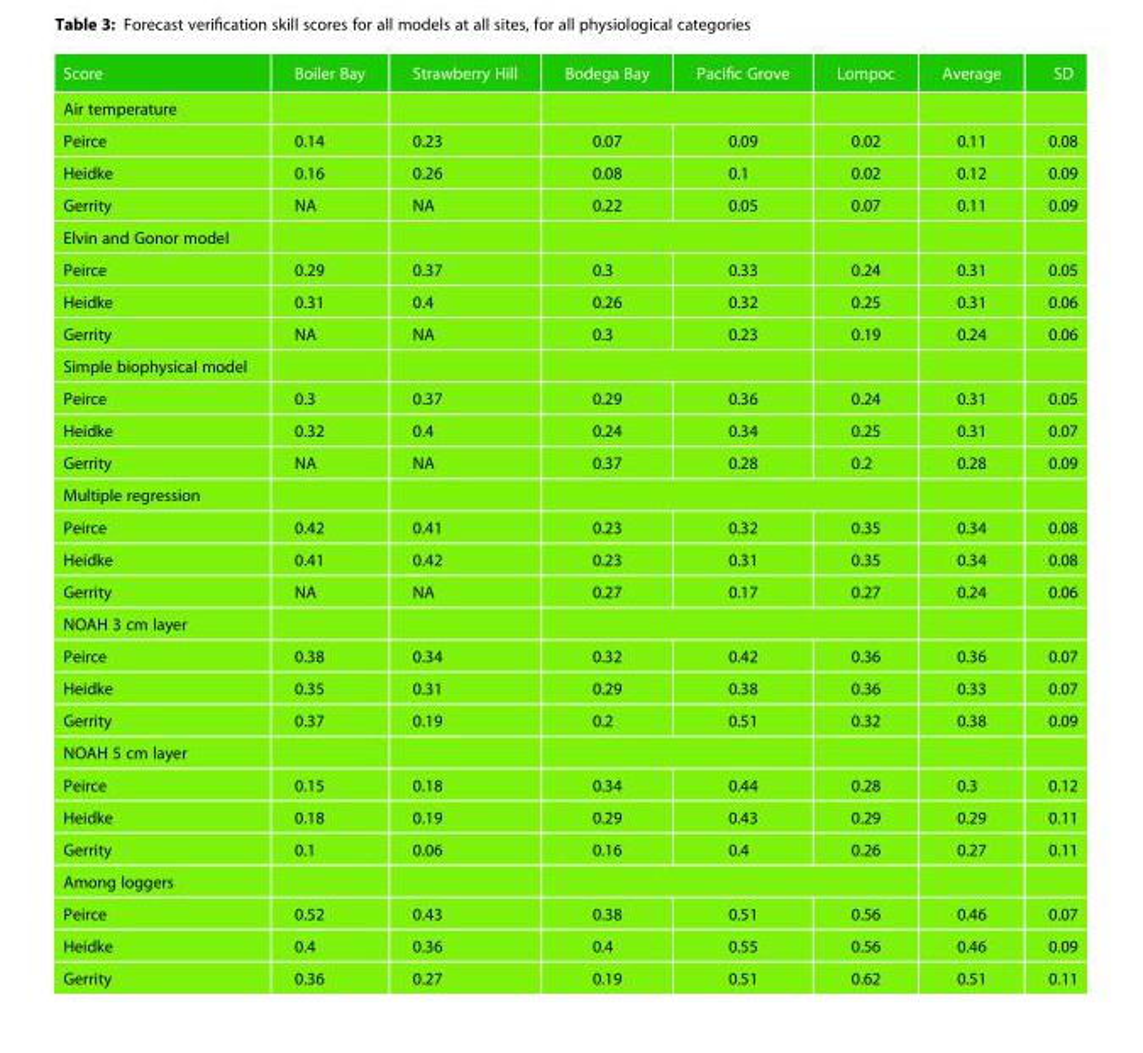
<table><thead><tr><td>Score</td><td>Boiler Bay</td><td>Strawberry Hill</td><td>Bodega Bay</td><td>Pacific Grove</td><td>Lompoc</td><td>Average</td><td>SD</td></tr></thead><tbody><tr><td colspan="8">Air temperature</td></tr><tr><td>Peirce</td><td>0.14</td><td>0.23</td><td>0.07</td><td>0.09</td><td>0.02</td><td>0.11</td><td>0.08</td></tr><tr><td>Heidke</td><td>0.16</td><td>0.26</td><td>0.08</td><td>0.1</td><td>0.02</td><td>0.12</td><td>0.09</td></tr><tr><td>Gerrity</td><td>NA</td><td>NA</td><td>0.22</td><td>0.05</td><td>0.07</td><td>0.11</td><td>0.09</td></tr><tr><td colspan="8">Elvin and Gonor model</td></tr><tr><td>Peirce</td><td>0.29</td><td>0.37</td><td>0.3</td><td>0.33</td><td>0.24</td><td>0.31</td><td>0.05</td></tr><tr><td>Heidke</td><td>0.31</td><td>0.4</td><td>0.26</td><td>0.32</td><td>0.25</td><td>0.31</td><td>0.06</td></tr><tr><td>Gerrity</td><td>NA</td><td>NA</td><td>0.3</td><td>0.23</td><td>0.19</td><td>0.24</td><td>0.06</td></tr><tr><td colspan="8">Simple biophysical model</td></tr><tr><td>Peirce</td><td>0.3</td><td>0.37</td><td>0.29</td><td>0.36</td><td>0.24</td><td>0.31</td><td>0.05</td></tr><tr><td>Heidke</td><td>0.32</td><td>0.4</td><td>0.24</td><td>0.34</td><td>0.25</td><td>0.31</td><td>0.07</td></tr><tr><td>Gerrity</td><td>NA</td><td>NA</td><td>0.37</td><td>0.28</td><td>0.2</td><td>0.28</td><td>0.09</td></tr><tr><td colspan="8">Multiple regression</td></tr><tr><td>Peirce</td><td>0.42</td><td>0.41</td><td>0.23</td><td>0.32</td><td>0.35</td><td>0.34</td><td>0.08</td></tr><tr><td>Heidke</td><td>0.41</td><td>0.42</td><td>0.23</td><td>0.31</td><td>0.35</td><td>0.34</td><td>0.08</td></tr><tr><td>Gerrity</td><td>NA</td><td>NA</td><td>0.27</td><td>0.17</td><td>0.27</td><td>0.24</td><td>0.06</td></tr><tr><td colspan="8">NOAH 3 cm layer</td></tr><tr><td>Peirce</td><td>0.38</td><td>0.34</td><td>0.32</td><td>0.42</td><td>0.36</td><td>0.36</td><td>0.07</td></tr><tr><td>Heidke</td><td>0.35</td><td>0.31</td><td>0.29</td><td>0.38</td><td>0.36</td><td>0.33</td><td>0.07</td></tr><tr><td>Gerrity</td><td>0.37</td><td>0.19</td><td>0.2</td><td>0.51</td><td>0.32</td><td>0.38</td><td>0.09</td></tr><tr><td colspan="8">NOAH 5 cm layer</td></tr><tr><td>Peirce</td><td>0.15</td><td>0.18</td><td>0.34</td><td>0.44</td><td>0.28</td><td>0.3</td><td>0.12</td></tr><tr><td>Heidke</td><td>0.18</td><td>0.19</td><td>0.29</td><td>0.43</td><td>0.29</td><td>0.29</td><td>0.11</td></tr><tr><td>Gerrity</td><td>0.1</td><td>0.06</td><td>0.16</td><td>0.4</td><td>0.26</td><td>0.27</td><td>0.11</td></tr><tr><td colspan="8">Among loggers</td></tr><tr><td>Peirce</td><td>0.52</td><td>0.43</td><td>0.38</td><td>0.51</td><td>0.56</td><td>0.46</td><td>0.07</td></tr><tr><td>Heidke</td><td>0.4</td><td>0.36</td><td>0.4</td><td>0.55</td><td>0.56</td><td>0.46</td><td>0.09</td></tr><tr><td>Gerrity</td><td>0.36</td><td>0.27</td><td>0.19</td><td>0.51</td><td>0.62</td><td>0.51</td><td>0.11</td></tr></tbody></table>